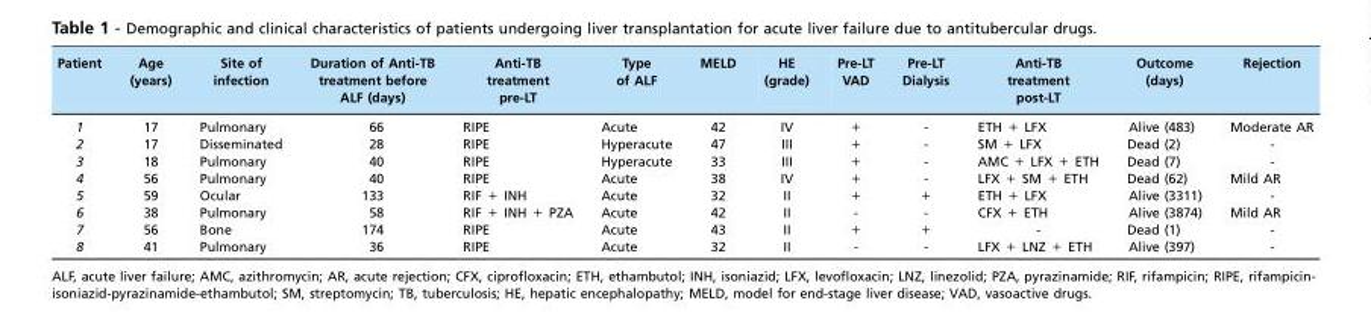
<table><thead><tr><td>Patient</td><td>Age (years)</td><td>Site of infection</td><td>Duration of Anti-TB treatment before ALF (days)</td><td>Anti-TB treatment pre-LT</td><td>Type of ALF</td><td>MELD</td><td>HE (grade)</td><td>Pre-LT VAD</td><td>Pre-LT Dialysis</td><td>Anti-TB treatment post-LT</td><td>Outcome (days)</td><td>Rejection</td></tr></thead><tbody><tr><td>1</td><td>17</td><td>Pulmonary</td><td>66</td><td>RIPE</td><td>Acute</td><td>42</td><td>IV</td><td>+</td><td>-</td><td>ETH + LFX</td><td>Alive (483)</td><td>Moderate AR</td></tr><tr><td>2</td><td>17</td><td>Disseminated</td><td>28</td><td>RIPE</td><td>Hyperacute</td><td>47</td><td>III</td><td>+</td><td>-</td><td>SM + LFX</td><td>Dead (2)</td><td>-</td></tr><tr><td>3</td><td>18</td><td>Pulmonary</td><td>40</td><td>RIPE</td><td>Hyperacute</td><td>33</td><td>III</td><td>+</td><td>-</td><td>AMC + LFX + ETH</td><td>Dead (7)</td><td>-</td></tr><tr><td>4</td><td>56</td><td>Pulmonary</td><td>40</td><td>RIPE</td><td>Acute</td><td>38</td><td>IV</td><td>+</td><td>-</td><td>LFX + SM + ETH</td><td>Dead (62)</td><td>Mild AR</td></tr><tr><td>5</td><td>59</td><td>Ocular</td><td>133</td><td>RIF + INH</td><td>Acute</td><td>32</td><td>II</td><td>+</td><td>+</td><td>ETH + LFX</td><td>Alive (3311)</td><td>-</td></tr><tr><td>6</td><td>38</td><td>Pulmonary</td><td>58</td><td>RIF + INH + PZA</td><td>Acute</td><td>42</td><td>II</td><td>-</td><td>-</td><td>CFX + ETH</td><td>Alive (3874)</td><td>Mild AR</td></tr><tr><td>7</td><td>56</td><td>Bone</td><td>174</td><td>RIPE</td><td>Acute</td><td>43</td><td>II</td><td>+</td><td>+</td><td>-</td><td>Dead (1)</td><td>-</td></tr><tr><td>8</td><td>41</td><td>Pulmonary</td><td>36</td><td>RIPE</td><td>Acute</td><td>32</td><td>II</td><td>-</td><td>-</td><td>LFX + LNZ + ETH</td><td>Alive (397)</td><td>-</td></tr></tbody></table>